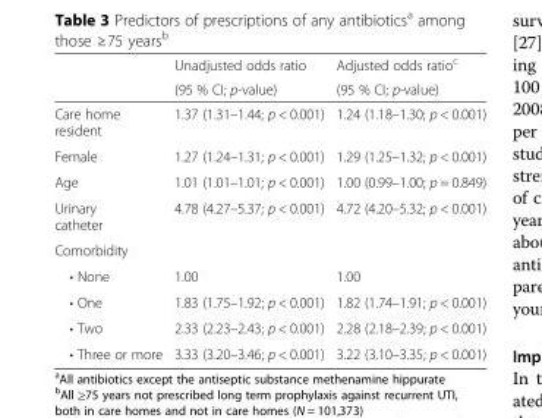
<table><thead><tr><td rowspan="2"></td><td rowspan="2">Unadjusted odds ratio (95 % CI; p-value)</td><td rowspan="2">Adjusted odds ratio<sup>c</sup> (95 % CI; p-value)</td></tr><tr></tr></thead><tbody><tr><td>Care home resident</td><td>1.37 (1.31–1.44; p &lt; 0.001)</td><td>1.24 (1.18–1.30; p &lt; 0.001)</td></tr><tr><td>Female</td><td>1.27 (1.24–1.31; p &lt; 0.001)</td><td>1.29 (1.25–1.32; p &lt; 0.001)</td></tr><tr><td>Age</td><td>1.01 (1.01–1.01; p &lt; 0.001)</td><td>1.00 (0.99–1.00; p = 0.849)</td></tr><tr><td>Urinary catheter</td><td>4.78 (4.27–5.37; p &lt; 0.001)</td><td>4.72 (4.20–5.32; p &lt; 0.001)</td></tr><tr><td colspan="3">Comorbidity</td></tr><tr><td>• None</td><td>1.00</td><td>1.00</td></tr><tr><td>• One</td><td>1.83 (1.75–1.92; p &lt; 0.001)</td><td>1.82 (1.74–1.91; p &lt; 0.001)</td></tr><tr><td>• Two</td><td>2.33 (2.23–2.43; p &lt; 0.001)</td><td>2.28 (2.18–2.39; p &lt; 0.001)</td></tr><tr><td>• Three or more</td><td>3.33 (3.20–3.46; p &lt; 0.001)</td><td>3.22 (3.10–3.35; p &lt; 0.001)</td></tr></tbody></table>